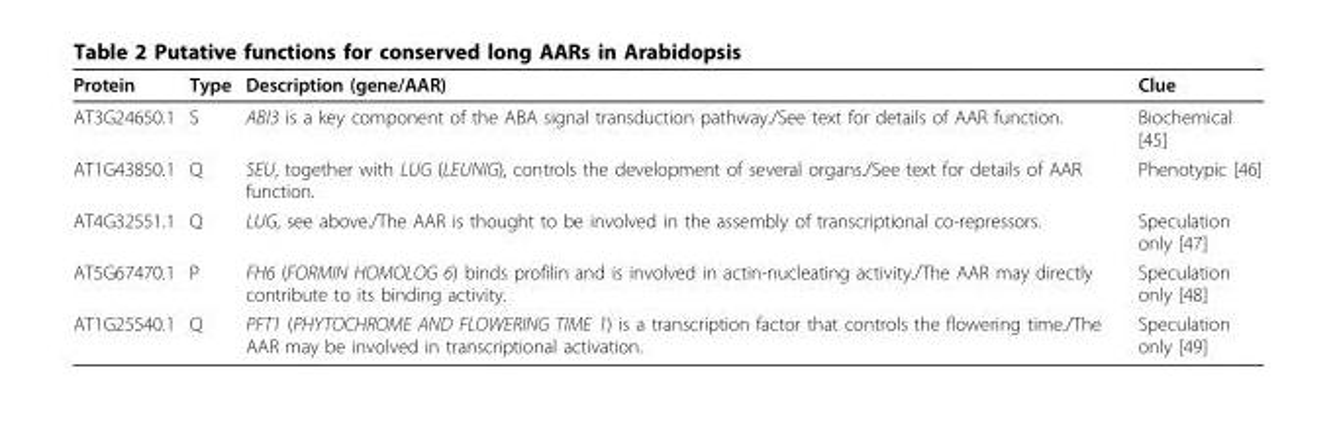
<table><thead><tr><td>Protein</td><td>Type</td><td>Description (gene/AAR)</td><td>Clue</td></tr></thead><tbody><tr><td>AT3G24650.1</td><td>S</td><td>ABI3 is a key component of the ABA signal transduction pathway./See text for details of AAR function.</td><td>Biochemical [45]</td></tr><tr><td>AT1G43850.1</td><td>Q</td><td>SEU, together with LUG (LEUNIG), controls the development of several organs./See text for details of AAR function.</td><td>Phenotypic [46]</td></tr><tr><td>AT4G32551.1</td><td>Q</td><td>LUG, see above./The AAR is thought to be involved in the assembly of transcriptional co-repressors.</td><td>Speculation only [47]</td></tr><tr><td>AT5G67470.1</td><td>P</td><td>FH6 (FORMIN HOMOLOG 6) binds profilin and is involved in actin-nucleating activity./The AAR may directly contribute to its binding activity.</td><td>Speculation only [48]</td></tr><tr><td>AT1G25540.1</td><td>Q</td><td>PFT1 (PHYTOCHROME AND FLOWERING TIME 1) is a transcription factor that controls the flowering time./The AAR may be involved in transcriptional activation.</td><td>Speculation only [49]</td></tr></tbody></table>